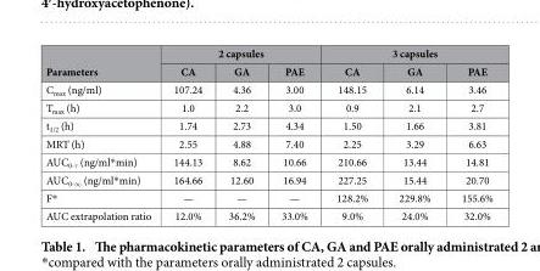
<table><thead><tr><td rowspan="2">Parameters</td><td colspan="3">2 capsules</td><td colspan="3">3 capsules</td></tr><tr><td>CA</td><td>GA</td><td>PAE</td><td>CA</td><td>GA</td><td>PAE</td></tr></thead><tbody><tr><td>C<sub>max</sub> (ng/ml)</td><td>107.24</td><td>4.36</td><td>3.00</td><td>148.15</td><td>6.14</td><td>3.46</td></tr><tr><td>T<sub>max</sub> (h)</td><td>1.0</td><td>2.2</td><td>3.0</td><td>0.9</td><td>2.1</td><td>2.7</td></tr><tr><td>t<sub>1/2</sub> (h)</td><td>1.74</td><td>2.73</td><td>4.34</td><td>1.50</td><td>1.66</td><td>3.81</td></tr><tr><td>MRT (h)</td><td>2.55</td><td>4.88</td><td>7.40</td><td>2.25</td><td>3.29</td><td>6.63</td></tr><tr><td>AUC<sub>0-τ</sub> (ng/ml*min)</td><td>144.13</td><td>8.62</td><td>10.66</td><td>210.66</td><td>13.44</td><td>14.81</td></tr><tr><td>AUC<sub>0-∞</sub> (ng/ml*min)</td><td>164.66</td><td>12.60</td><td>16.94</td><td>227.25</td><td>15.44</td><td>20.70</td></tr><tr><td>F*</td><td>—</td><td>—</td><td>—</td><td>128.2%</td><td>229.8%</td><td>155.6%</td></tr><tr><td>AUC extrapolation ratio</td><td>12.0%</td><td>36.2%</td><td>33.0%</td><td>9.0%</td><td>24.0%</td><td>32.0%</td></tr></tbody></table>